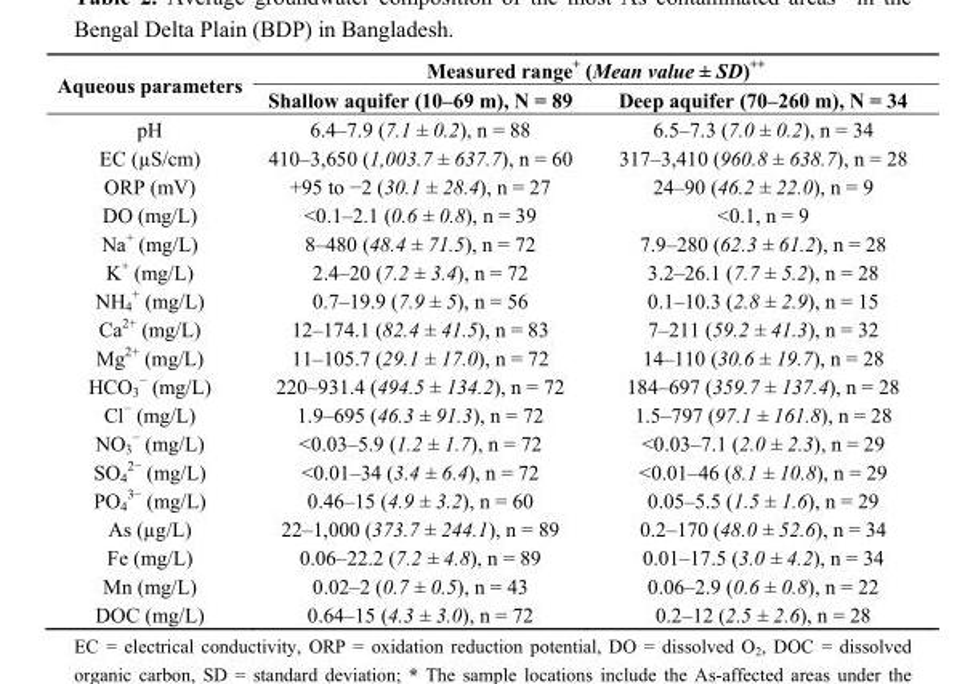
<table><thead><tr><td rowspan="2">Aqueous parameters</td><td colspan="2">Measured range<sup>+</sup> (Mean value ± SD)<sup>++</sup></td></tr><tr><td>Shallow aquifer (10–69 m), N = 89</td><td>Deep aquifer (70–260 m), N = 34</td></tr></thead><tbody><tr><td>pH</td><td>6.4–7.9 (7.1 ± 0.2), n = 88</td><td>6.5–7.3 (7.0 ± 0.2), n = 34</td></tr><tr><td>EC (µS/cm)</td><td>410–3,650 (1,003.7 ± 637.7), n = 60</td><td>317–3,410 (960.8 ± 638.7), n = 28</td></tr><tr><td>ORP (mV)</td><td>+95 to −2 (30.1 ± 28.4), n = 27</td><td>24–90 (46.2 ± 22.0), n = 9</td></tr><tr><td>DO (mg/L)</td><td>&lt;0.1–2.1 (0.6 ± 0.8), n = 39</td><td>&lt;0.1, n = 9</td></tr><tr><td>Na<sup>+</sup> (mg/L)</td><td>8–480 (48.4 ± 71.5), n = 72</td><td>7.9–280 (62.3 ± 61.2), n = 28</td></tr><tr><td>K<sup>+</sup> (mg/L)</td><td>2.4–20 (7.2 ± 3.4), n = 72</td><td>3.2–26.1 (7.7 ± 5.2), n = 28</td></tr><tr><td>NH<sub>4</sub> <sup>+</sup> (mg/L)</td><td>0.7–19.9 (7.9 ± 5), n = 56</td><td>0.1–10.3 (2.8 ± 2.9), n = 15</td></tr><tr><td>Ca<sup>2+</sup> (mg/L)</td><td>12–174.1 (82.4 ± 41.5), n = 83</td><td>7–211 (59.2 ± 41.3), n = 32</td></tr><tr><td>Mg<sup>2+</sup> (mg/L)</td><td>11–105.7 (29.1 ± 17.0), n = 72</td><td>14–110 (30.6 ± 19.7), n = 28</td></tr><tr><td>HCO<sub>3</sub> <sup>−</sup> (mg/L)</td><td>220–931.4 (494.5 ± 134.2), n = 72</td><td>184–697 (359.7 ± 137.4), n = 28</td></tr><tr><td>Cl<sup>−</sup> (mg/L)</td><td>1.9–695 (46.3 ± 91.3), n = 72</td><td>1.5–797 (97.1 ± 161.8), n = 28</td></tr><tr><td>NO<sub>3</sub> <sup>−</sup> (mg/L)</td><td>&lt;0.03–5.9 (1.2 ± 1.7), n = 72</td><td>&lt;0.03–7.1 (2.0 ± 2.3), n = 29</td></tr><tr><td>SO<sub>4</sub> <sup>2−</sup> (mg/L)</td><td>&lt;0.01–34 (3.4 ± 6.4), n = 72</td><td>&lt;0.01–46 (8.1 ± 10.8), n = 29</td></tr><tr><td>PO<sub>4</sub> <sup>3−</sup> (mg/L)</td><td>0.46–15 (4.9 ± 3.2), n = 60</td><td>0.05–5.5 (1.5 ± 1.6), n = 29</td></tr><tr><td>As (µg/L)</td><td>22–1,000 (373.7 ± 244.1), n = 89</td><td>0.2–170 (48.0 ± 52.6), n = 34</td></tr><tr><td>Fe (mg/L)</td><td>0.06–22.2 (7.2 ± 4.8), n = 89</td><td>0.01–17.5 (3.0 ± 4.2), n = 34</td></tr><tr><td>Mn (mg/L)</td><td>0.02–2 (0.7 ± 0.5), n = 43</td><td>0.06–2.9 (0.6 ± 0.8), n = 22</td></tr><tr><td>DOC (mg/L)</td><td>0.64–15 (4.3 ± 3.0), n = 72</td><td>0.2–12 (2.5 ± 2.6), n = 28</td></tr></tbody></table>